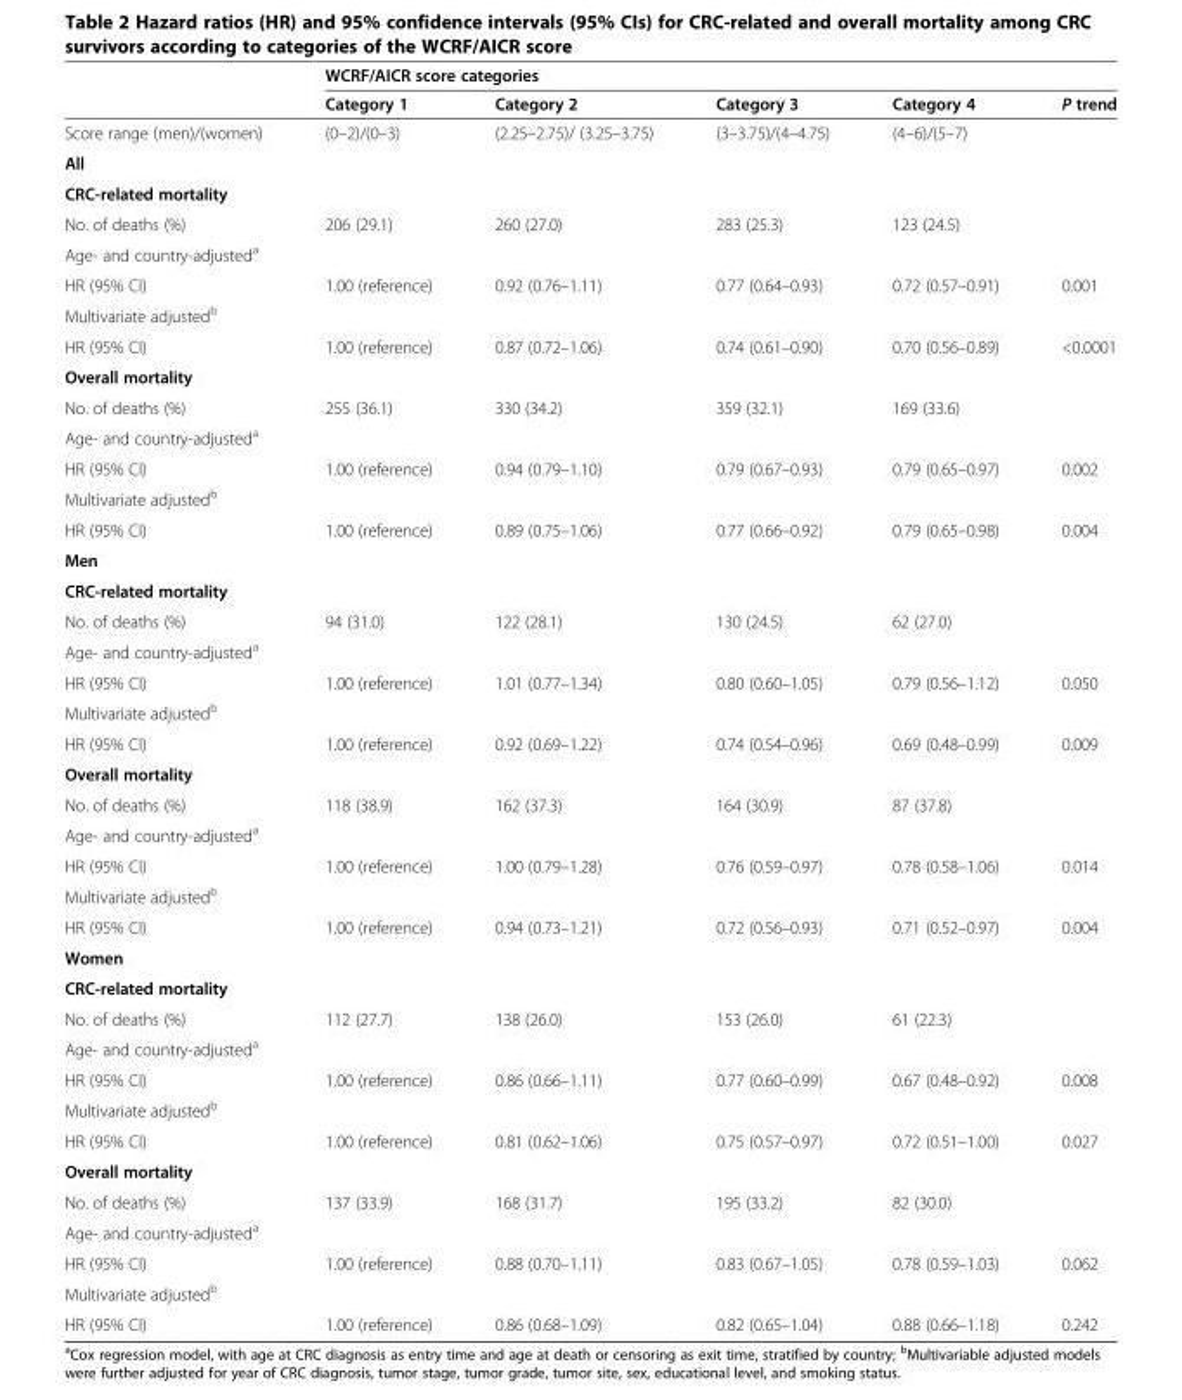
<table><thead><tr><td rowspan="2"></td><td colspan="5">WCRF/AICR score categories</td></tr><tr><td>Category 1</td><td>Category 2</td><td>Category 3</td><td>Category 4</td><td>P trend</td></tr></thead><tbody><tr><td>Score range (men)/(women)</td><td>(0–2)/(0–3)</td><td>(2.25–2.75)/ (3.25–3.75)</td><td>(3–3.75)/(4–4.75)</td><td>(4–6)/(5–7)</td><td></td></tr><tr><td colspan="6">All</td></tr><tr><td colspan="6">CRC-related mortality</td></tr><tr><td>No. of deaths (%)</td><td>206 (29.1)</td><td>260 (27.0)</td><td>283 (25.3)</td><td>123 (24.5)</td><td></td></tr><tr><td colspan="6">Age- and country-adjusted<sup>a</sup></td></tr><tr><td>HR (95% CI)</td><td>1.00 (reference)</td><td>0.92 (0.76–1.11)</td><td>0.77 (0.64–0.93)</td><td>0.72 (0.57–0.91)</td><td>0.001</td></tr><tr><td colspan="6">Multivariate adjusted<sup>b</sup></td></tr><tr><td>HR (95% CI)</td><td>1.00 (reference)</td><td>0.87 (0.72–1.06)</td><td>0.74 (0.61–0.90)</td><td>0.70 (0.56–0.89)</td><td>&lt;0.0001</td></tr><tr><td colspan="6">Overall mortality</td></tr><tr><td>No. of deaths (%)</td><td>255 (36.1)</td><td>330 (34.2)</td><td>359 (32.1)</td><td>169 (33.6)</td><td></td></tr><tr><td colspan="6">Age- and country-adjusted<sup>a</sup></td></tr><tr><td>HR (95% CI)</td><td>1.00 (reference)</td><td>0.94 (0.79–1.10)</td><td>0.79 (0.67–0.93)</td><td>0.79 (0.65–0.97)</td><td>0.002</td></tr><tr><td colspan="6">Multivariate adjusted<sup>b</sup></td></tr><tr><td>HR (95% CI)</td><td>1.00 (reference)</td><td>0.89 (0.75–1.06)</td><td>0.77 (0.66–0.92)</td><td>0.79 (0.65–0.98)</td><td>0.004</td></tr><tr><td colspan="6">Men</td></tr><tr><td colspan="6">CRC-related mortality</td></tr><tr><td>No. of deaths (%)</td><td>94 (31.0)</td><td>122 (28.1)</td><td>130 (24.5)</td><td>62 (27.0)</td><td></td></tr><tr><td colspan="6">Age- and country-adjusted<sup>a</sup></td></tr><tr><td>HR (95% CI)</td><td>1.00 (reference)</td><td>1.01 (0.77–1.34)</td><td>0.80 (0.60–1.05)</td><td>0.79 (0.56–1.12)</td><td>0.050</td></tr><tr><td colspan="6">Multivariate adjusted<sup>b</sup></td></tr><tr><td>HR (95% CI)</td><td>1.00 (reference)</td><td>0.92 (0.69–1.22)</td><td>0.74 (0.54–0.96)</td><td>0.69 (0.48–0.99)</td><td>0.009</td></tr><tr><td colspan="6">Overall mortality</td></tr><tr><td>No. of deaths (%)</td><td>118 (38.9)</td><td>162 (37.3)</td><td>164 (30.9)</td><td>87 (37.8)</td><td></td></tr><tr><td colspan="6">Age- and country-adjusted<sup>a</sup></td></tr><tr><td>HR (95% CI)</td><td>1.00 (reference)</td><td>1.00 (0.79–1.28)</td><td>0.76 (0.59–0.97)</td><td>0.78 (0.58–1.06)</td><td>0.014</td></tr><tr><td colspan="6">Multivariate adjusted<sup>b</sup></td></tr><tr><td>HR (95% CI)</td><td>1.00 (reference)</td><td>0.94 (0.73–1.21)</td><td>0.72 (0.56–0.93)</td><td>0.71 (0.52–0.97)</td><td>0.004</td></tr><tr><td colspan="6">Women</td></tr><tr><td colspan="6">CRC-related mortality</td></tr><tr><td>No. of deaths (%)</td><td>112 (27.7)</td><td>138 (26.0)</td><td>153 (26.0)</td><td>61 (22.3)</td><td></td></tr><tr><td colspan="6">Age- and country-adjusted<sup>a</sup></td></tr><tr><td>HR (95% CI)</td><td>1.00 (reference)</td><td>0.86 (0.66–1.11)</td><td>0.77 (0.60–0.99)</td><td>0.67 (0.48–0.92)</td><td>0.008</td></tr><tr><td colspan="6">Multivariate adjusted<sup>b</sup></td></tr><tr><td>HR (95% CI)</td><td>1.00 (reference)</td><td>0.81 (0.62–1.06)</td><td>0.75 (0.57–0.97)</td><td>0.72 (0.51–1.00)</td><td>0.027</td></tr><tr><td colspan="6">Overall mortality</td></tr><tr><td>No. of deaths (%)</td><td>137 (33.9)</td><td>168 (31.7)</td><td>195 (33.2)</td><td>82 (30.0)</td><td></td></tr><tr><td colspan="6">Age- and country-adjusted<sup>a</sup></td></tr><tr><td>HR (95% CI)</td><td>1.00 (reference)</td><td>0.88 (0.70–1.11)</td><td>0.83 (0.67–1.05)</td><td>0.78 (0.59–1.03)</td><td>0.062</td></tr><tr><td colspan="6">Multivariate adjusted<sup>b</sup></td></tr><tr><td>HR (95% CI)</td><td>1.00 (reference)</td><td>0.86 (0.68–1.09)</td><td>0.82 (0.65–1.04)</td><td>0.88 (0.66–1.18)</td><td>0.242</td></tr></tbody></table>